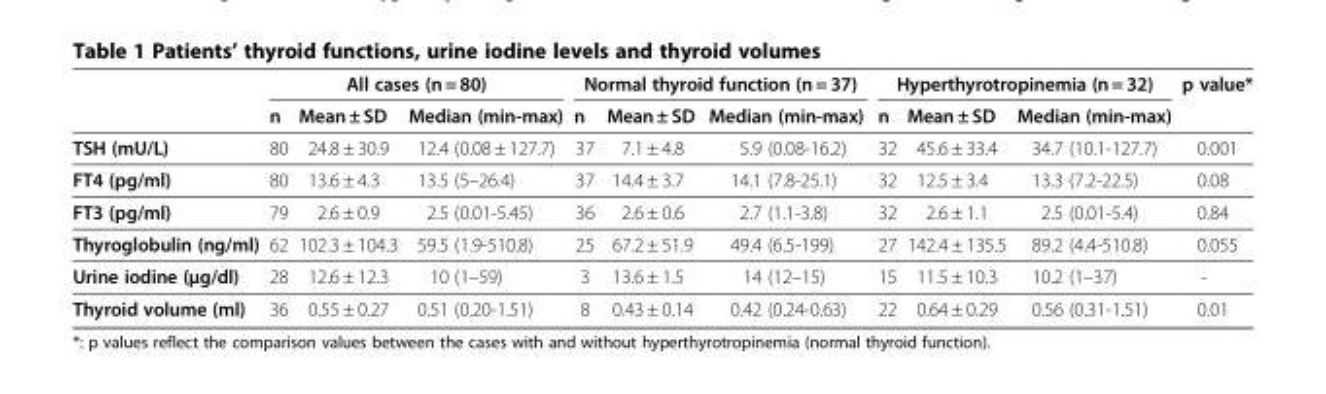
<table><thead><tr><td rowspan="2"></td><td colspan="3">All cases (n = 80)</td><td colspan="3">Normal thyroid function (n = 37)</td><td colspan="3">Hyperthyrotropinemia (n = 32)</td><td rowspan="2">p value*</td></tr><tr><td>n</td><td>Mean ± SD</td><td>Median (min-max)</td><td>n</td><td>Mean ± SD</td><td>Median (min-max)</td><td>n</td><td>Mean ± SD</td><td>Median (min-max)</td></tr></thead><tbody><tr><td>TSH (mU/L)</td><td>80</td><td>24.8 ± 30.9</td><td>12.4 (0.08 ± 127.7)</td><td>37</td><td>7.1 ± 4.8</td><td>5.9 (0.08-16.2)</td><td>32</td><td>45.6 ± 33.4</td><td>34.7 (10.1-127.7)</td><td>0.001</td></tr><tr><td>FT4 (pg/ml)</td><td>80</td><td>13.6 ± 4.3</td><td>13.5 (5–26.4)</td><td>37</td><td>14.4 ± 3.7</td><td>14.1 (7.8-25.1)</td><td>32</td><td>12.5 ± 3.4</td><td>13.3 (7.2-22.5)</td><td>0.08</td></tr><tr><td>FT3 (pg/ml)</td><td>79</td><td>2.6 ± 0.9</td><td>2.5 (0.01-5.45)</td><td>36</td><td>2.6 ± 0.6</td><td>2.7 (1.1-3.8)</td><td>32</td><td>2.6 ± 1.1</td><td>2.5 (0.01-5.4)</td><td>0.84</td></tr><tr><td>Thyroglobulin (ng/ml)</td><td>62</td><td>102.3 ± 104.3</td><td>59.5 (1.9-510.8)</td><td>25</td><td>67.2 ± 51.9</td><td>49.4 (6.5-199)</td><td>27</td><td>142.4 ± 135.5</td><td>89.2 (4.4-510.8)</td><td>0.055</td></tr><tr><td>Urine iodine (μg/dl)</td><td>28</td><td>12.6 ± 12.3</td><td>10 (1–59)</td><td>3</td><td>13.6 ± 1.5</td><td>14 (12–15)</td><td>15</td><td>11.5 ± 10.3</td><td>10.2 (1–37)</td><td>-</td></tr><tr><td>Thyroid volume (ml)</td><td>36</td><td>0.55 ± 0.27</td><td>0.51 (0.20-1.51)</td><td>8</td><td>0.43 ± 0.14</td><td>0.42 (0.24-0.63)</td><td>22</td><td>0.64 ± 0.29</td><td>0.56 (0.31-1.51)</td><td>0.01</td></tr></tbody></table>